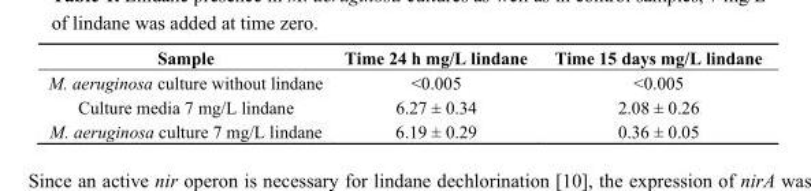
<table><thead><tr><td>Sample</td><td>Time 24 h mg/L lindane</td><td>Time 15 days mg/L lindane</td></tr></thead><tbody><tr><td>M. aeruginosa culture without lindane</td><td>&lt;0.005</td><td>&lt;0.005</td></tr><tr><td>Culture media 7 mg/L lindane</td><td>6.27 ± 0.34</td><td>2.08 ± 0.26</td></tr><tr><td>M. aeruginosa culture 7 mg/L lindane</td><td>6.19 ± 0.29</td><td>0.36 ± 0.05</td></tr></tbody></table>